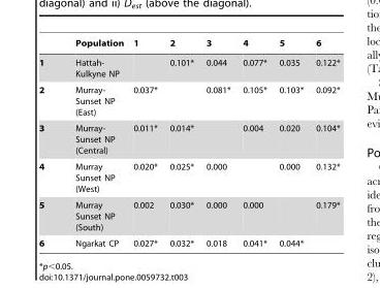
<table><thead><tr><td></td><td>Population</td><td>1</td><td>2</td><td>3</td><td>4</td><td>5</td><td>6</td></tr></thead><tbody><tr><td>1</td><td>Hattah- Kulkyne NP</td><td></td><td>0.101*</td><td>0.044</td><td>0.077*</td><td>0.035</td><td>0.122*</td></tr><tr><td>2</td><td>Murray- Sunset NP (East)</td><td>0.037*</td><td></td><td>0.081*</td><td>0.105*</td><td>0.103*</td><td>0.092*</td></tr><tr><td>3</td><td>Murray- Sunset NP (Central)</td><td>0.011*</td><td>0.014*</td><td></td><td>0.004</td><td>0.020</td><td>0.104*</td></tr><tr><td>4</td><td>Murray Sunset NP (West)</td><td>0.020*</td><td>0.025*</td><td>0.000</td><td></td><td>0.000</td><td>0.132*</td></tr><tr><td>5</td><td>Murray Sunset NP (South)</td><td>0.002</td><td>0.030*</td><td>0.000</td><td>0.000</td><td></td><td>0.179*</td></tr><tr><td>6</td><td>Ngarkat CP</td><td>0.027*</td><td>0.032*</td><td>0.018</td><td>0.041*</td><td>0.044*</td><td></td></tr></tbody></table>